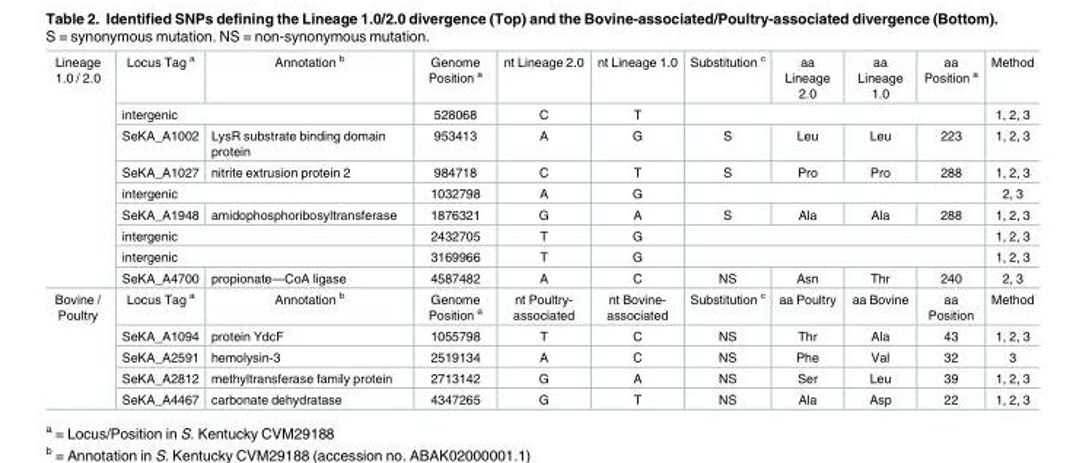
<table><tbody><tr><td rowspan="9">Lineage 1.0 / 2.0</td><td>Locus Tag <sup>a</sup></td><td>Annotation <sup>b</sup></td><td>Genome Position <sup>a</sup></td><td>nt Lineage 2.0</td><td>nt Lineage 1.0</td><td>Substitution <sup>c</sup></td><td>aa Lineage 2.0</td><td>aa Lineage 1.0</td><td>aa Position <sup>a</sup></td><td>Method</td></tr><tr><td colspan="2">intergenic</td><td>528068</td><td>C</td><td>T</td><td colspan="4"></td><td>1, 2, 3</td></tr><tr><td>SeKA_A1002</td><td>LysR substrate binding domain protein</td><td>953413</td><td>A</td><td>G</td><td>S</td><td>Leu</td><td>Leu</td><td>223</td><td>1, 2, 3</td></tr><tr><td>SeKA_A1027</td><td>nitrite extrusion protein 2</td><td>984718</td><td>C</td><td>T</td><td>S</td><td>Pro</td><td>Pro</td><td>288</td><td>1, 2, 3</td></tr><tr><td colspan="2">intergenic</td><td>1032798</td><td>A</td><td>G</td><td colspan="4"></td><td>2, 3</td></tr><tr><td>SeKA_A1948</td><td>amidophosphoribosyltransferase</td><td>1876321</td><td>G</td><td>A</td><td>S</td><td>Ala</td><td>Ala</td><td>288</td><td>1, 2, 3</td></tr><tr><td colspan="2">intergenic</td><td>2432705</td><td>T</td><td>G</td><td colspan="4"></td><td>1, 2, 3</td></tr><tr><td colspan="2">intergenic</td><td>3169966</td><td>T</td><td>G</td><td colspan="4"></td><td>1, 2, 3</td></tr><tr><td>SeKA_A4700</td><td>propionate—CoA ligase</td><td>4587482</td><td>A</td><td>C</td><td>NS</td><td>Asn</td><td>Thr</td><td>240</td><td>2, 3</td></tr><tr><td rowspan="5">Bovine / Poultry</td><td>Locus Tag <sup>a</sup></td><td>Annotation <sup>b</sup></td><td>Genome Position <sup>a</sup></td><td>nt Poultry- associated</td><td>nt Bovine- associated</td><td>Substitution <sup>c</sup></td><td>aa Poultry</td><td>aa Bovine</td><td>aa Position</td><td>Method</td></tr><tr><td>SeKA_A1094</td><td>protein YdcF</td><td>1055798</td><td>T</td><td>C</td><td>NS</td><td>Thr</td><td>Ala</td><td>43</td><td>1, 2, 3</td></tr><tr><td>SeKA_A2591</td><td>hemolysin-3</td><td>2519134</td><td>A</td><td>C</td><td>NS</td><td>Phe</td><td>Val</td><td>32</td><td>3</td></tr><tr><td>SeKA_A2812</td><td>methyltransferase family protein</td><td>2713142</td><td>G</td><td>A</td><td>NS</td><td>Ser</td><td>Leu</td><td>39</td><td>1, 2, 3</td></tr><tr><td>SeKA_A4467</td><td>carbonate dehydratase</td><td>4347265</td><td>G</td><td>T</td><td>NS</td><td>Ala</td><td>Asp</td><td>22</td><td>1, 2, 3</td></tr></tbody></table>